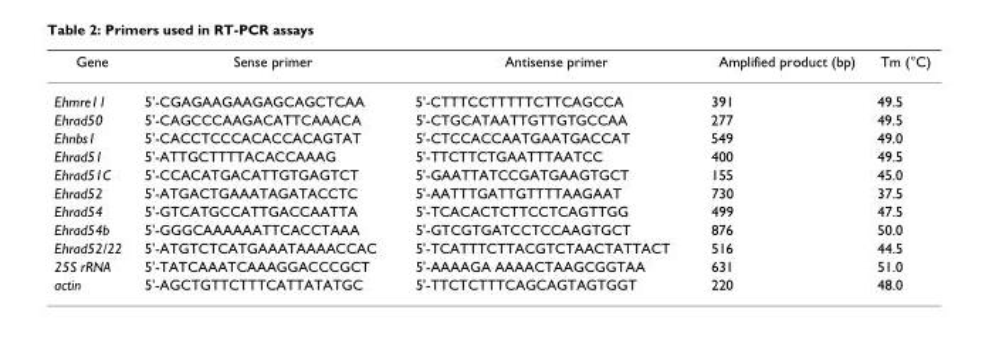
<table><thead><tr><td>Gene</td><td>Sense primer</td><td>Antisense primer</td><td>Amplified product (bp)</td><td>Tm (°C)</td></tr></thead><tbody><tr><td>Ehmre11</td><td>5&#x27;-CGAGAAGAAGAGCAGCTCAA</td><td>5&#x27;-CTTTCCTTTTTCTTCAGCCA</td><td>391</td><td>49.5</td></tr><tr><td>Ehrad50</td><td>5&#x27;-CAGCCCAAGACATTCAAACA</td><td>5&#x27;-CTGCATAATTGTTGTGCCAA</td><td>277</td><td>49.5</td></tr><tr><td>Ehnbs1</td><td>5&#x27;-CACCTCCCACACCACAGTAT</td><td>5&#x27;-CTCCACCAATGAATGACCAT</td><td>549</td><td>49.0</td></tr><tr><td>Ehrad51</td><td>5&#x27;-ATTGCTTTTACACCAAAG</td><td>5&#x27;-TTCTTCTGAATTTAATCC</td><td>400</td><td>49.5</td></tr><tr><td>Ehrad51C</td><td>5&#x27;-CCACATGACATTGTGAGTCT</td><td>5&#x27;-GAATTATCCGATGAAGTGCT</td><td>155</td><td>45.0</td></tr><tr><td>Ehrad52</td><td>5&#x27;-ATGACTGAAATAGATACCTC</td><td>5&#x27;-AATTTGATTGTTTTAAGAAT</td><td>730</td><td>37.5</td></tr><tr><td>Ehrad54</td><td>5&#x27;-GTCATGCCATTGACCAATTA</td><td>5&#x27;-TCACACTCTTCCTCAGTTGG</td><td>499</td><td>47.5</td></tr><tr><td>Ehrad54b</td><td>5&#x27;-GGGCAAAAAATTCACCTAAA</td><td>5&#x27;-GTCGTGATCCTCCAAGTGCT</td><td>876</td><td>50.0</td></tr><tr><td>Ehrad52/22</td><td>5&#x27;-ATGTCTCATGAAATAAAACCAC</td><td>5&#x27;-TCATTTCTTACGTCTAACTATTACT</td><td>516</td><td>44.5</td></tr><tr><td>25S rRNA</td><td>5&#x27;-TATCAAATCAAAGGACCCGCT</td><td>5&#x27;-AAAAGA AAAACTAAGCGGTAA</td><td>631</td><td>51.0</td></tr><tr><td>actin</td><td>5&#x27;-AGCTGTTCTTTCATTATATGC</td><td>5&#x27;-TTCTCTTTCAGCAGTAGTGGT</td><td>220</td><td>48.0</td></tr></tbody></table>